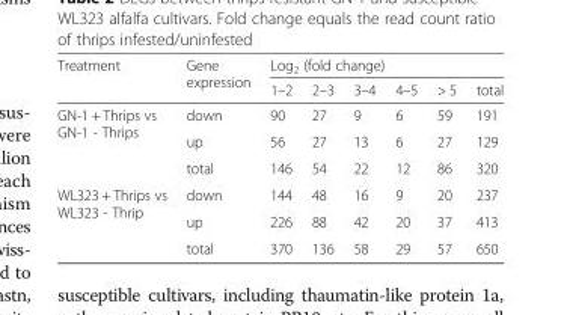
<table><thead><tr><td rowspan="2">Treatment</td><td rowspan="2">Gene expression</td><td colspan="6">Log<sub>2</sub> (fold change)</td></tr><tr><td>1–2</td><td>2–3</td><td>3–4</td><td>4–5</td><td>&gt; 5</td><td>total</td></tr></thead><tbody><tr><td rowspan="3">GN-1 + Thrips vs GN-1 - Thrips</td><td>down</td><td>90</td><td>27</td><td>9</td><td>6</td><td>59</td><td>191</td></tr><tr><td>up</td><td>56</td><td>27</td><td>13</td><td>6</td><td>27</td><td>129</td></tr><tr><td>total</td><td>146</td><td>54</td><td>22</td><td>12</td><td>86</td><td>320</td></tr><tr><td rowspan="3">WL323 + Thrips vs WL323 - Thrip</td><td>down</td><td>144</td><td>48</td><td>16</td><td>9</td><td>20</td><td>237</td></tr><tr><td>up</td><td>226</td><td>88</td><td>42</td><td>20</td><td>37</td><td>413</td></tr><tr><td>total</td><td>370</td><td>136</td><td>58</td><td>29</td><td>57</td><td>650</td></tr></tbody></table>